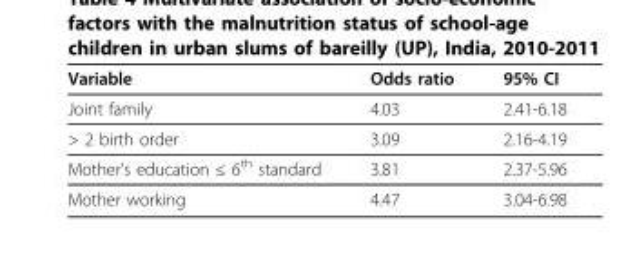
<table><thead><tr><td>Variable</td><td>Odds ratio</td><td>95% CI</td></tr></thead><tbody><tr><td>Joint family</td><td>4.03</td><td>2.41-6.18</td></tr><tr><td>&gt; 2 birth order</td><td>3.09</td><td>2.16-4.19</td></tr><tr><td>Mother’s education ≤ 6<sup>th</sup> standard</td><td>3.81</td><td>2.37-5.96</td></tr><tr><td>Mother working</td><td>4.47</td><td>3.04-6.98</td></tr></tbody></table>